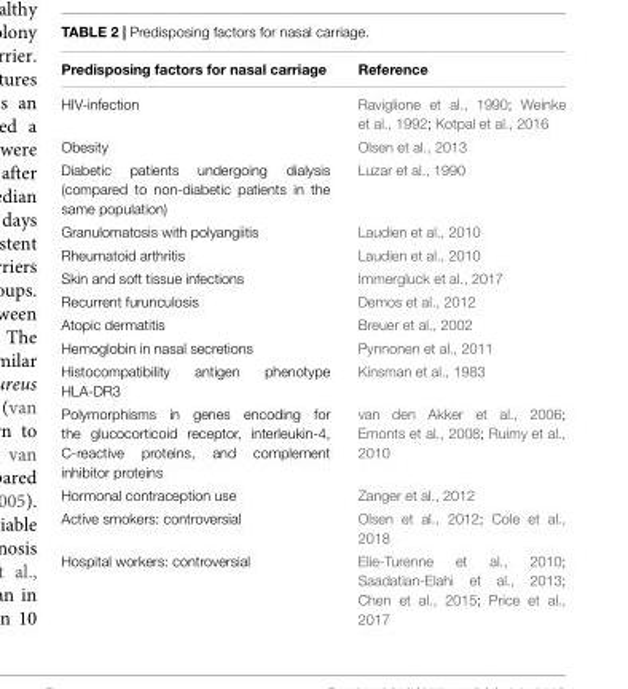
<table><thead><tr><td>Predisposing factors for nasal carriage</td><td>Reference</td></tr></thead><tbody><tr><td>HIV-infection</td><td>Raviglione et al., 1990; Weinke et al., 1992; Kotpal et al., 2016</td></tr><tr><td>Obesity</td><td>Olsen et al., 2013</td></tr><tr><td>Diabetic patients undergoing dialysis (compared to non-diabetic patients in the same population)</td><td>Luzar et al., 1990</td></tr><tr><td>Granulomatosis with polyangiitis</td><td>Laudien et al., 2010</td></tr><tr><td>Rheumatoid arthritis</td><td>Laudien et al., 2010</td></tr><tr><td>Skin and soft tissue infections</td><td>Immergluck et al., 2017</td></tr><tr><td>Recurrent furunculosis</td><td>Demos et al., 2012</td></tr><tr><td>Atopic dermatitis</td><td>Breuer et al., 2002</td></tr><tr><td>Hemoglobin in nasal secretions</td><td>Pynnonen et al., 2011</td></tr><tr><td>Histocompatibility antigen phenotype HLA-DR3</td><td>Kinsman et al., 1983</td></tr><tr><td>Polymorphisms in genes encoding for the glucocorticoid receptor, interleukin-4, C-reactive proteins, and complement inhibitor proteins</td><td>van den Akker et al., 2006; Emonts et al., 2008; Ruimy et al., 2010</td></tr><tr><td>Hormonal contraception use</td><td>Zanger et al., 2012</td></tr><tr><td>Active smokers: controversial</td><td>Olsen et al., 2012; Cole et al., 2018</td></tr><tr><td>Hospital workers: controversial</td><td>Elie-Turenne et al., 2010; Saadatian-Elahi et al., 2013; Chen et al., 2015; Price et al., 2017</td></tr></tbody></table>